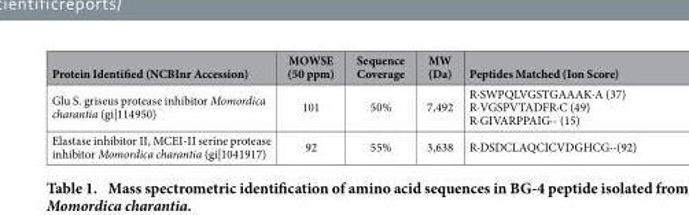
<table><thead><tr><td>Protein Identified (NCBInr Accession)</td><td>MOWSE (50 ppm)</td><td>Sequence Coverage</td><td>MW (Da)</td><td>Peptides Matched (Ion Score)</td></tr></thead><tbody><tr><td>Glu S. griseus protease inhibitor Momordica charantia (gi|114950)</td><td>101</td><td>50%</td><td>7,492</td><td>R·SWPQLVGSTGAAAK·A (37) R·VGSPVTADFR·C (49) R·GIVARPPAIG·- (15)</td></tr><tr><td>Elastase inhibitor II, MCEI-II serine protease inhibitor Momordica charantia (gi|1041917)</td><td>92</td><td>55%</td><td>3,638</td><td>R·DSDCLAQCICVDGHCG·-(92)</td></tr></tbody></table>